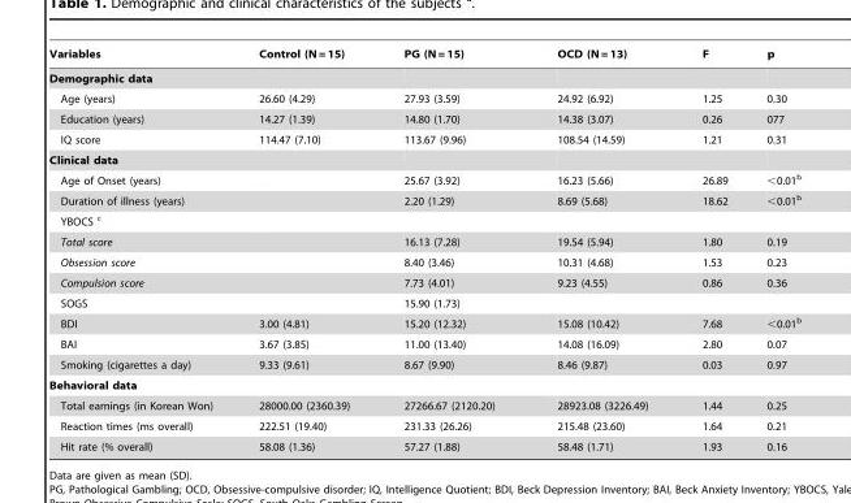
<table><thead><tr><td>Variables</td><td>Control (N = 15)</td><td>PG (N = 15)</td><td>OCD (N = 13)</td><td>F</td><td>p</td></tr></thead><tbody><tr><td colspan="6">Demographic data</td></tr><tr><td>Age (years)</td><td>26.60 (4.29)</td><td>27.93 (3.59)</td><td>24.92 (6.92)</td><td>1.25</td><td>0.30</td></tr><tr><td>Education (years)</td><td>14.27 (1.39)</td><td>14.80 (1.70)</td><td>14.38 (3.07)</td><td>0.26</td><td>077</td></tr><tr><td>IQ score</td><td>114.47 (7.10)</td><td>113.67 (9.96)</td><td>108.54 (14.59)</td><td>1.21</td><td>0.31</td></tr><tr><td colspan="6">Clinical data</td></tr><tr><td>Age of Onset (years)</td><td></td><td>25.67 (3.92)</td><td>16.23 (5.66)</td><td>26.89</td><td>&lt;0.01<sup>b</sup></td></tr><tr><td>Duration of illness (years)</td><td></td><td>2.20 (1.29)</td><td>8.69 (5.68)</td><td>18.62</td><td>&lt;0.01<sup>b</sup></td></tr><tr><td colspan="6">YBOCS c</td></tr><tr><td>Total score</td><td></td><td>16.13 (7.28)</td><td>19.54 (5.94)</td><td>1.80</td><td>0.19</td></tr><tr><td>Obsession score</td><td></td><td>8.40 (3.46)</td><td>10.31 (4.68)</td><td>1.53</td><td>0.23</td></tr><tr><td>Compulsion score</td><td></td><td>7.73 (4.01)</td><td>9.23 (4.55)</td><td>0.86</td><td>0.36</td></tr><tr><td>SOGS</td><td></td><td>15.90 (1.73)</td><td></td><td></td><td></td></tr><tr><td>BDI</td><td>3.00 (4.81)</td><td>15.20 (12.32)</td><td>15.08 (10.42)</td><td>7.68</td><td>&lt;0.01<sup>b</sup></td></tr><tr><td>BAI</td><td>3.67 (3.85)</td><td>11.00 (13.40)</td><td>14.08 (16.09)</td><td>2.80</td><td>0.07</td></tr><tr><td>Smoking (cigarettes a day)</td><td>9.33 (9.61)</td><td>8.67 (9.90)</td><td>8.46 (9.87)</td><td>0.03</td><td>0.97</td></tr><tr><td colspan="6">Behavioral data</td></tr><tr><td>Total earnings (in Korean Won)</td><td>28000.00 (2360.39)</td><td>27266.67 (2120.20)</td><td>28923.08 (3226.49)</td><td>1.44</td><td>0.25</td></tr><tr><td>Reaction times (ms overall)</td><td>222.51 (19.40)</td><td>231.33 (26.26)</td><td>215.48 (23.60)</td><td>1.64</td><td>0.21</td></tr><tr><td>Hit rate (% overall)</td><td>58.08 (1.36)</td><td>57.27 (1.88)</td><td>58.48 (1.71)</td><td>1.93</td><td>0.16</td></tr></tbody></table>